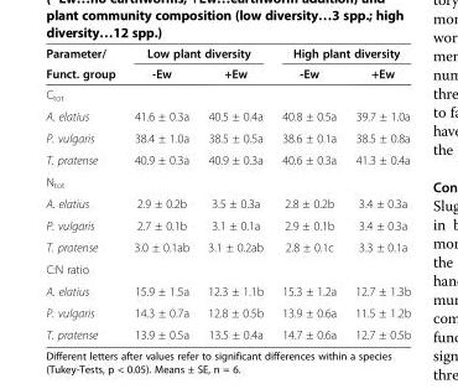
<table><thead><tr><td rowspan="2">Parameter/ Funct. group</td><td colspan="2">Low plant diversity</td><td colspan="2">High plant diversity</td></tr><tr><td>-Ew</td><td>+Ew</td><td>-Ew</td><td>+Ew</td></tr></thead><tbody><tr><td colspan="5">C<sub>tot</sub></td></tr><tr><td>A. elatius</td><td>41.6 ± 0.3a</td><td>40.5 ± 0.4a</td><td>40.8 ± 0.5a</td><td>39.7 ± 1.0a</td></tr><tr><td>P. vulgaris</td><td>38.4 ± 1.0a</td><td>38.5 ± 0.5a</td><td>38.6 ± 0.1a</td><td>38.5 ± 0.8a</td></tr><tr><td>T. pratense</td><td>40.9 ± 0.3a</td><td>40.9 ± 0.3a</td><td>40.6 ± 0.3a</td><td>41.3 ± 0.4a</td></tr><tr><td colspan="5">N<sub>tot</sub></td></tr><tr><td>A. elatius</td><td>2.9 ± 0.2b</td><td>3.5 ± 0.3a</td><td>2.8 ± 0.2b</td><td>3.4 ± 0.3a</td></tr><tr><td>P. vulgaris</td><td>2.7 ± 0.1b</td><td>3.1 ± 0.1a</td><td>2.9 ± 0.1b</td><td>3.4 ± 0.3a</td></tr><tr><td>T. pratense</td><td>3.0 ± 0.1ab</td><td>3.1 ± 0.2ab</td><td>2.8 ± 0.1c</td><td>3.3 ± 0.1a</td></tr><tr><td colspan="5">C:N ratio</td></tr><tr><td>A. elatius</td><td>15.9 ± 1.5a</td><td>12.3 ± 1.1b</td><td>15.3 ± 1.2a</td><td>12.7 ± 1.3b</td></tr><tr><td>P. vulgaris</td><td>14.3 ± 0.7a</td><td>12.8 ± 0.5b</td><td>13.9 ± 0.6a</td><td>11.5 ± 1.2b</td></tr><tr><td>T. pratense</td><td>13.9 ± 0.5a</td><td>13.5 ± 0.4a</td><td>14.7 ± 0.6a</td><td>12.7 ± 0.5b</td></tr></tbody></table>